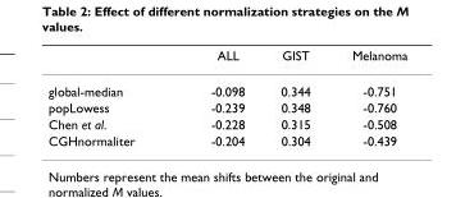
<table><thead><tr><td></td><td>ALL</td><td>GIST</td><td>Melanoma</td></tr></thead><tbody><tr><td>global-median</td><td>-0.098</td><td>0.344</td><td>-0.751</td></tr><tr><td>popLowess</td><td>-0.239</td><td>0.348</td><td>-0.760</td></tr><tr><td>Chen et al.</td><td>-0.228</td><td>0.315</td><td>-0.508</td></tr><tr><td>CGHnormaliter</td><td>-0.204</td><td>0.304</td><td>-0.439</td></tr></tbody></table>